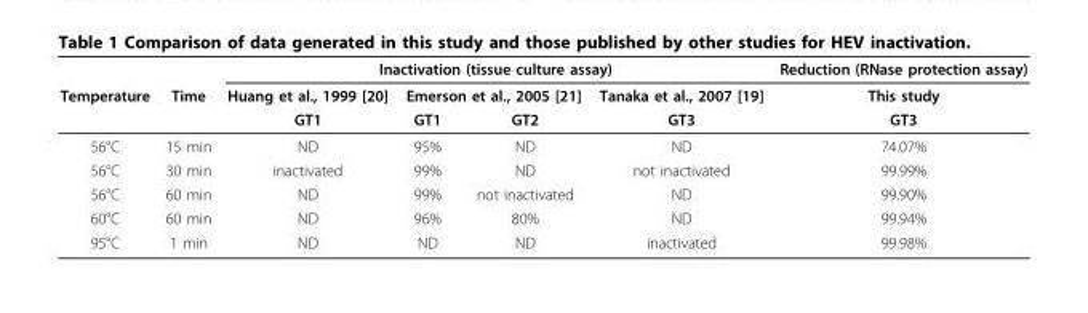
<table><thead><tr><td rowspan="3">Temperature</td><td rowspan="3">Time</td><td colspan="4">Inactivation (tissue culture assay)</td><td rowspan="3">Reduction (RNase protection assay) This study GT3</td></tr><tr><td rowspan="2">Huang et al., 1999 [20] GT1</td><td colspan="2">Emerson et al., 2005 [21]</td><td rowspan="2">Tanaka et al., 2007 [19] GT3</td></tr><tr><td>GT1</td><td>GT2</td></tr></thead><tbody><tr><td>56°C</td><td>15 min</td><td>ND</td><td>95%</td><td>ND</td><td>ND</td><td>74.07%</td></tr><tr><td>56°C</td><td>30 min</td><td>inactivated</td><td>99%</td><td>ND</td><td>not inactivated</td><td>99.99%</td></tr><tr><td>56°C</td><td>60 min</td><td>ND</td><td>99%</td><td>not inactivated</td><td>ND</td><td>99.90%</td></tr><tr><td>60°C</td><td>60 min</td><td>ND</td><td>96%</td><td>80%</td><td>ND</td><td>99.94%</td></tr><tr><td>95°C</td><td>1 min</td><td>ND</td><td>ND</td><td>ND</td><td>inactivated</td><td>99.98%</td></tr></tbody></table>